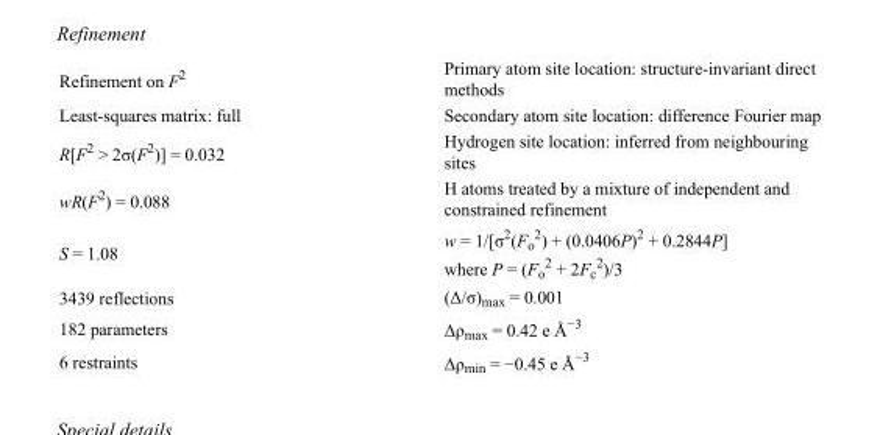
<table><tbody><tr><td>Refinement on F<sup>2</sup></td><td>Primary atom site location: structure-invariant direct methods</td></tr><tr><td>Least-squares matrix: full</td><td>Secondary atom site location: difference Fourier map</td></tr><tr><td>R[F<sup>2</sup> &gt; 2σ(F<sup>2</sup>)] = 0.032</td><td>Hydrogen site location: inferred from neighbouring sites</td></tr><tr><td>wR(F<sup>2</sup>) = 0.088</td><td>H atoms treated by a mixture of independent and constrained refinement</td></tr><tr><td>S = 1.08</td><td>w = 1/[σ<sup>2</sup>(F<sub>o</sub> <sup>2</sup>) + (0.0406P)<sup>2</sup> + 0.2844P] where P = (F<sub>o</sub> <sup>2</sup> + 2F<sub>c</sub> <sup>2</sup>)/3</td></tr><tr><td>3439 reflections</td><td>(Δ/σ)<sub>max</sub> = 0.001</td></tr><tr><td>182 parameters</td><td>Δρ<sub>max</sub> = 0.42 e Å<sup>−3</sup></td></tr><tr><td>6 restraints</td><td>Δρ<sub>min</sub> = −0.45 e Å<sup>−3</sup></td></tr></tbody></table>